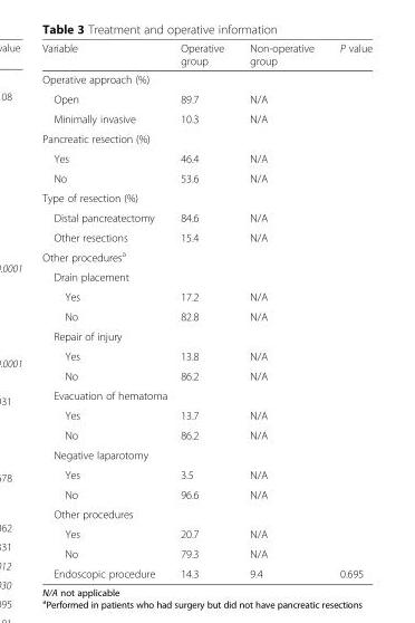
<table><thead><tr><td>Variable</td><td>Operative group</td><td>Non-operative group</td><td>P value</td></tr></thead><tbody><tr><td colspan="4">Operative approach (%)</td></tr><tr><td>Open</td><td>89.7</td><td>N/A</td><td></td></tr><tr><td>Minimally invasive</td><td>10.3</td><td>N/A</td><td></td></tr><tr><td colspan="4">Pancreatic resection (%)</td></tr><tr><td>Yes</td><td>46.4</td><td>N/A</td><td></td></tr><tr><td>No</td><td>53.6</td><td>N/A</td><td></td></tr><tr><td colspan="4">Type of resection (%)</td></tr><tr><td>Distal pancreatectomy</td><td>84.6</td><td>N/A</td><td></td></tr><tr><td>Other resections</td><td>15.4</td><td>N/A</td><td></td></tr><tr><td colspan="4">Other procedures<sup>a</sup></td></tr><tr><td colspan="4">Drain placement</td></tr><tr><td>Yes</td><td>17.2</td><td>N/A</td><td></td></tr><tr><td>No</td><td>82.8</td><td>N/A</td><td></td></tr><tr><td colspan="4">Repair of injury</td></tr><tr><td>Yes</td><td>13.8</td><td>N/A</td><td></td></tr><tr><td>No</td><td>86.2</td><td>N/A</td><td></td></tr><tr><td colspan="4">Evacuation of hematoma</td></tr><tr><td>Yes</td><td>13.7</td><td>N/A</td><td></td></tr><tr><td>No</td><td>86.2</td><td>N/A</td><td></td></tr><tr><td colspan="4">Negative laparotomy</td></tr><tr><td>Yes</td><td>3.5</td><td>N/A</td><td></td></tr><tr><td>No</td><td>96.6</td><td>N/A</td><td></td></tr><tr><td colspan="4">Other procedures</td></tr><tr><td>Yes</td><td>20.7</td><td>N/A</td><td></td></tr><tr><td>No</td><td>79.3</td><td>N/A</td><td></td></tr><tr><td>Endoscopic procedure</td><td>14.3</td><td>9.4</td><td>0.695</td></tr></tbody></table>